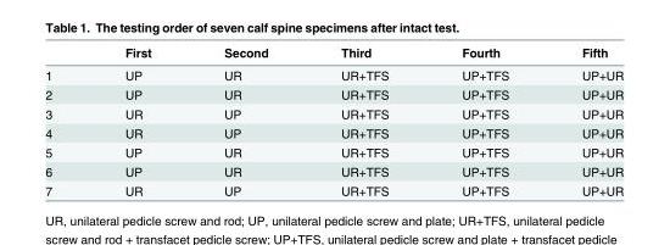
<table><thead><tr><td></td><td>First</td><td>Second</td><td>Third</td><td>Fourth</td><td>Fifth</td></tr></thead><tbody><tr><td>1</td><td>UP</td><td>UR</td><td>UR+TFS</td><td>UP+TFS</td><td>UP+UR</td></tr><tr><td>2</td><td>UP</td><td>UR</td><td>UR+TFS</td><td>UP+TFS</td><td>UP+UR</td></tr><tr><td>3</td><td>UR</td><td>UP</td><td>UR+TFS</td><td>UP+TFS</td><td>UP+UR</td></tr><tr><td>4</td><td>UR</td><td>UP</td><td>UR+TFS</td><td>UP+TFS</td><td>UP+UR</td></tr><tr><td>5</td><td>UP</td><td>UR</td><td>UR+TFS</td><td>UP+TFS</td><td>UP+UR</td></tr><tr><td>6</td><td>UP</td><td>UR</td><td>UR+TFS</td><td>UP+TFS</td><td>UP+UR</td></tr><tr><td>7</td><td>UR</td><td>UP</td><td>UR+TFS</td><td>UP+TFS</td><td>UP+UR</td></tr></tbody></table>